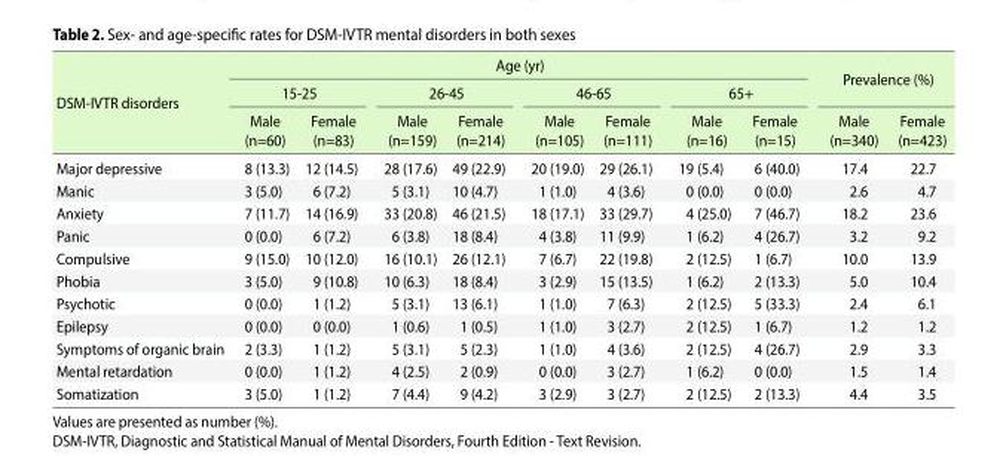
<table><thead><tr><td rowspan="3">DSM-IVTR disorders</td><td colspan="8">Age (yr)</td><td rowspan="2" colspan="2">Prevalence (%)</td></tr><tr><td colspan="2">15-25</td><td colspan="2">26-45</td><td colspan="2">46-65</td><td colspan="2">65+</td></tr><tr><td>Male (n=60)</td><td>Female (n=83)</td><td>Male (n=159)</td><td>Female (n=214)</td><td>Male (n=105)</td><td>Female (n=111)</td><td>Male (n=16)</td><td>Female (n=15)</td><td>Male (n=340)</td><td>Female (n=423)</td></tr></thead><tbody><tr><td>Major depressive</td><td>8 (13.3)</td><td>12 (14.5)</td><td>28 (17.6)</td><td>49 (22.9)</td><td>20 (19.0)</td><td>29 (26.1)</td><td>19 (5.4)</td><td>6 (40.0)</td><td>17.4</td><td>22.7</td></tr><tr><td>Manic</td><td>3 (5.0)</td><td>6 (7.2)</td><td>5 (3.1)</td><td>10 (4.7)</td><td>1 (1.0)</td><td>4 (3.6)</td><td>0 (0.0)</td><td>0 (0.0)</td><td>2.6</td><td>4.7</td></tr><tr><td>Anxiety</td><td>7 (11.7)</td><td>14 (16.9)</td><td>33 (20.8)</td><td>46 (21.5)</td><td>18 (17.1)</td><td>33 (29.7)</td><td>4 (25.0)</td><td>7 (46.7)</td><td>18.2</td><td>23.6</td></tr><tr><td>Panic</td><td>0 (0.0)</td><td>6 (7.2)</td><td>6 (3.8)</td><td>18 (8.4)</td><td>4 (3.8)</td><td>11 (9.9)</td><td>1 (6.2)</td><td>4 (26.7)</td><td>3.2</td><td>9.2</td></tr><tr><td>Compulsive</td><td>9 (15.0)</td><td>10 (12.0)</td><td>16 (10.1)</td><td>26 (12.1)</td><td>7 (6.7)</td><td>22 (19.8)</td><td>2 (12.5)</td><td>1 (6.7)</td><td>10.0</td><td>13.9</td></tr><tr><td>Phobia</td><td>3 (5.0)</td><td>9 (10.8)</td><td>10 (6.3)</td><td>18 (8.4)</td><td>3 (2.9)</td><td>15 (13.5)</td><td>1 (6.2)</td><td>2 (13.3)</td><td>5.0</td><td>10.4</td></tr><tr><td>Psychotic</td><td>0 (0.0)</td><td>1 (1.2)</td><td>5 (3.1)</td><td>13 (6.1)</td><td>1 (1.0)</td><td>7 (6.3)</td><td>2 (12.5)</td><td>5 (33.3)</td><td>2.4</td><td>6.1</td></tr><tr><td>Epilepsy</td><td>0 (0.0)</td><td>0 (0.0)</td><td>1 (0.6)</td><td>1 (0.5)</td><td>1 (1.0)</td><td>3 (2.7)</td><td>2 (12.5)</td><td>1 (6.7)</td><td>1.2</td><td>1.2</td></tr><tr><td>Symptoms of organic brain</td><td>2 (3.3)</td><td>1 (1.2)</td><td>5 (3.1)</td><td>5 (2.3)</td><td>1 (1.0)</td><td>4 (3.6)</td><td>2 (12.5)</td><td>4 (26.7)</td><td>2.9</td><td>3.3</td></tr><tr><td>Mental retardation</td><td>0 (0.0)</td><td>1 (1.2)</td><td>4 (2.5)</td><td>2 (0.9)</td><td>0 (0.0)</td><td>3 (2.7)</td><td>1 (6.2)</td><td>0 (0.0)</td><td>1.5</td><td>1.4</td></tr><tr><td>Somatization</td><td>3 (5.0)</td><td>1 (1.2)</td><td>7 (4.4)</td><td>9 (4.2)</td><td>3 (2.9)</td><td>3 (2.7)</td><td>2 (12.5)</td><td>2 (13.3)</td><td>4.4</td><td>3.5</td></tr></tbody></table>